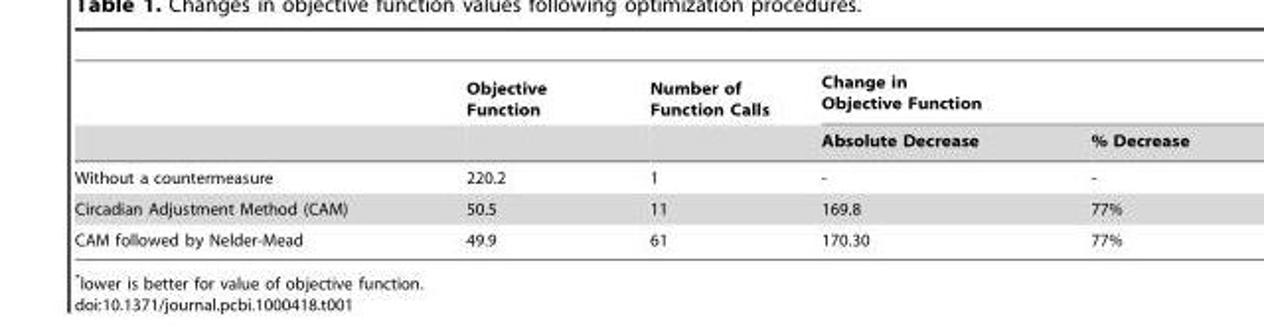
<table><thead><tr><td rowspan="2"></td><td rowspan="2">Objective Function</td><td rowspan="2">Number of Function Calls</td><td colspan="2">Change in Objective Function</td></tr><tr><td>Absolute Decrease</td><td>% Decrease</td></tr></thead><tbody><tr><td>Without a countermeasure</td><td>220.2</td><td>1</td><td>-</td><td>-</td></tr><tr><td>Circadian Adjustment Method (CAM)</td><td>50.5</td><td>11</td><td>169.8</td><td>77%</td></tr><tr><td>CAM followed by Nelder-Mead</td><td>49.9</td><td>61</td><td>170.30</td><td>77%</td></tr></tbody></table>